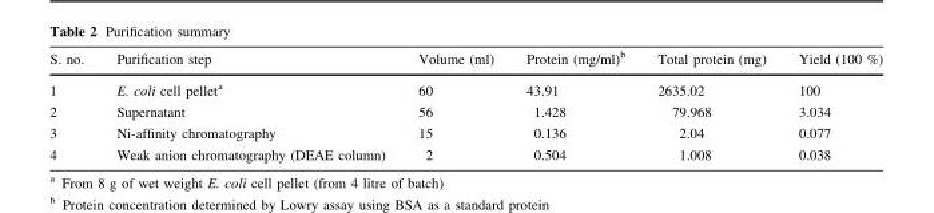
<table><thead><tr><td>S. no.</td><td>Purification step</td><td>Volume (ml)</td><td>Protein (mg/ml)<sup>b</sup></td><td>Total protein (mg)</td><td>Yield (100 %)</td></tr></thead><tbody><tr><td>1</td><td>E. coli cell pellet<sup>a</sup></td><td>60</td><td>43.91</td><td>2635.02</td><td>100</td></tr><tr><td>2</td><td>Supernatant</td><td>56</td><td>1.428</td><td>79.968</td><td>3.034</td></tr><tr><td>3</td><td>Ni-affinity chromatography</td><td>15</td><td>0.136</td><td>2.04</td><td>0.077</td></tr><tr><td>4</td><td>Weak anion chromatography (DEAE column)</td><td>2</td><td>0.504</td><td>1.008</td><td>0.038</td></tr></tbody></table>